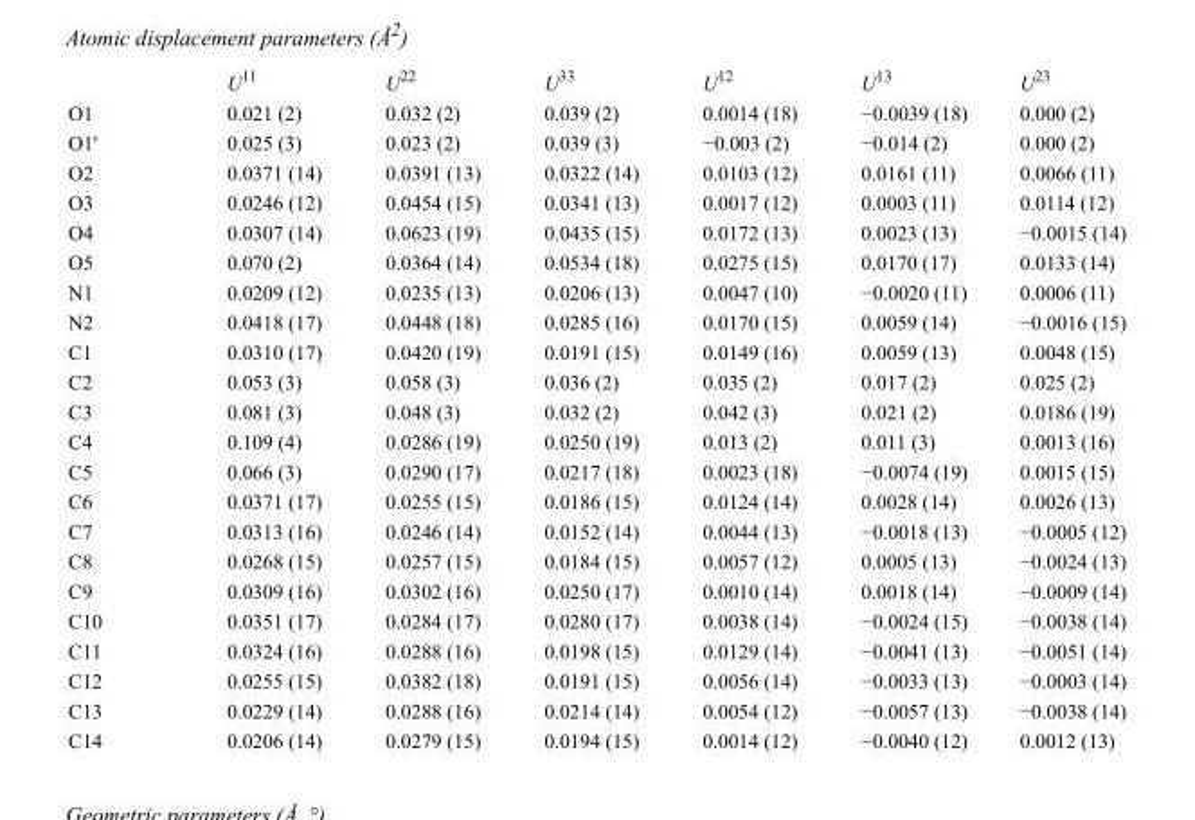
<table><thead><tr><td></td><td>U<sup>11</sup></td><td>U<sup>22</sup></td><td>U<sup>33</sup></td><td>U<sup>12</sup></td><td>U<sup>13</sup></td><td>U<sup>23</sup></td></tr></thead><tbody><tr><td>O1</td><td>0.021 (2)</td><td>0.032 (2)</td><td>0.039 (2)</td><td>0.0014 (18)</td><td>−0.0039 (18)</td><td>0.000 (2)</td></tr><tr><td>O1&#x27;</td><td>0.025 (3)</td><td>0.023 (2)</td><td>0.039 (3)</td><td>−0.003 (2)</td><td>−0.014 (2)</td><td>0.000 (2)</td></tr><tr><td>O2</td><td>0.0371 (14)</td><td>0.0391 (13)</td><td>0.0322 (14)</td><td>0.0103 (12)</td><td>0.0161 (11)</td><td>0.0066 (11)</td></tr><tr><td>O3</td><td>0.0246 (12)</td><td>0.0454 (15)</td><td>0.0341 (13)</td><td>0.0017 (12)</td><td>0.0003 (11)</td><td>0.0114 (12)</td></tr><tr><td>O4</td><td>0.0307 (14)</td><td>0.0623 (19)</td><td>0.0435 (15)</td><td>0.0172 (13)</td><td>0.0023 (13)</td><td>−0.0015 (14)</td></tr><tr><td>O5</td><td>0.070 (2)</td><td>0.0364 (14)</td><td>0.0534 (18)</td><td>0.0275 (15)</td><td>0.0170 (17)</td><td>0.0133 (14)</td></tr><tr><td>N1</td><td>0.0209 (12)</td><td>0.0235 (13)</td><td>0.0206 (13)</td><td>0.0047 (10)</td><td>−0.0020 (11)</td><td>0.0006 (11)</td></tr><tr><td>N2</td><td>0.0418 (17)</td><td>0.0448 (18)</td><td>0.0285 (16)</td><td>0.0170 (15)</td><td>0.0059 (14)</td><td>−0.0016 (15)</td></tr><tr><td>C1</td><td>0.0310 (17)</td><td>0.0420 (19)</td><td>0.0191 (15)</td><td>0.0149 (16)</td><td>0.0059 (13)</td><td>0.0048 (15)</td></tr><tr><td>C2</td><td>0.053 (3)</td><td>0.058 (3)</td><td>0.036 (2)</td><td>0.035 (2)</td><td>0.017 (2)</td><td>0.025 (2)</td></tr><tr><td>C3</td><td>0.081 (3)</td><td>0.048 (3)</td><td>0.032 (2)</td><td>0.042 (3)</td><td>0.021 (2)</td><td>0.0186 (19)</td></tr><tr><td>C4</td><td>0.109 (4)</td><td>0.0286 (19)</td><td>0.0250 (19)</td><td>0.013 (2)</td><td>0.011 (3)</td><td>0.0013 (16)</td></tr><tr><td>C5</td><td>0.066 (3)</td><td>0.0290 (17)</td><td>0.0217 (18)</td><td>0.0023 (18)</td><td>−0.0074 (19)</td><td>0.0015 (15)</td></tr><tr><td>C6</td><td>0.0371 (17)</td><td>0.0255 (15)</td><td>0.0186 (15)</td><td>0.0124 (14)</td><td>0.0028 (14)</td><td>0.0026 (13)</td></tr><tr><td>C7</td><td>0.0313 (16)</td><td>0.0246 (14)</td><td>0.0152 (14)</td><td>0.0044 (13)</td><td>−0.0018 (13)</td><td>−0.0005 (12)</td></tr><tr><td>C8</td><td>0.0268 (15)</td><td>0.0257 (15)</td><td>0.0184 (15)</td><td>0.0057 (12)</td><td>0.0005 (13)</td><td>−0.0024 (13)</td></tr><tr><td>C9</td><td>0.0309 (16)</td><td>0.0302 (16)</td><td>0.0250 (17)</td><td>0.0010 (14)</td><td>0.0018 (14)</td><td>−0.0009 (14)</td></tr><tr><td>C10</td><td>0.0351 (17)</td><td>0.0284 (17)</td><td>0.0280 (17)</td><td>0.0038 (14)</td><td>−0.0024 (15)</td><td>−0.0038 (14)</td></tr><tr><td>C11</td><td>0.0324 (16)</td><td>0.0288 (16)</td><td>0.0198 (15)</td><td>0.0129 (14)</td><td>−0.0041 (13)</td><td>−0.0051 (14)</td></tr><tr><td>C12</td><td>0.0255 (15)</td><td>0.0382 (18)</td><td>0.0191 (15)</td><td>0.0056 (14)</td><td>−0.0033 (13)</td><td>−0.0003 (14)</td></tr><tr><td>C13</td><td>0.0229 (14)</td><td>0.0288 (16)</td><td>0.0214 (14)</td><td>0.0054 (12)</td><td>−0.0057 (13)</td><td>−0.0038 (14)</td></tr><tr><td>C14</td><td>0.0206 (14)</td><td>0.0279 (15)</td><td>0.0194 (15)</td><td>0.0014 (12)</td><td>−0.0040 (12)</td><td>0.0012 (13)</td></tr></tbody></table>